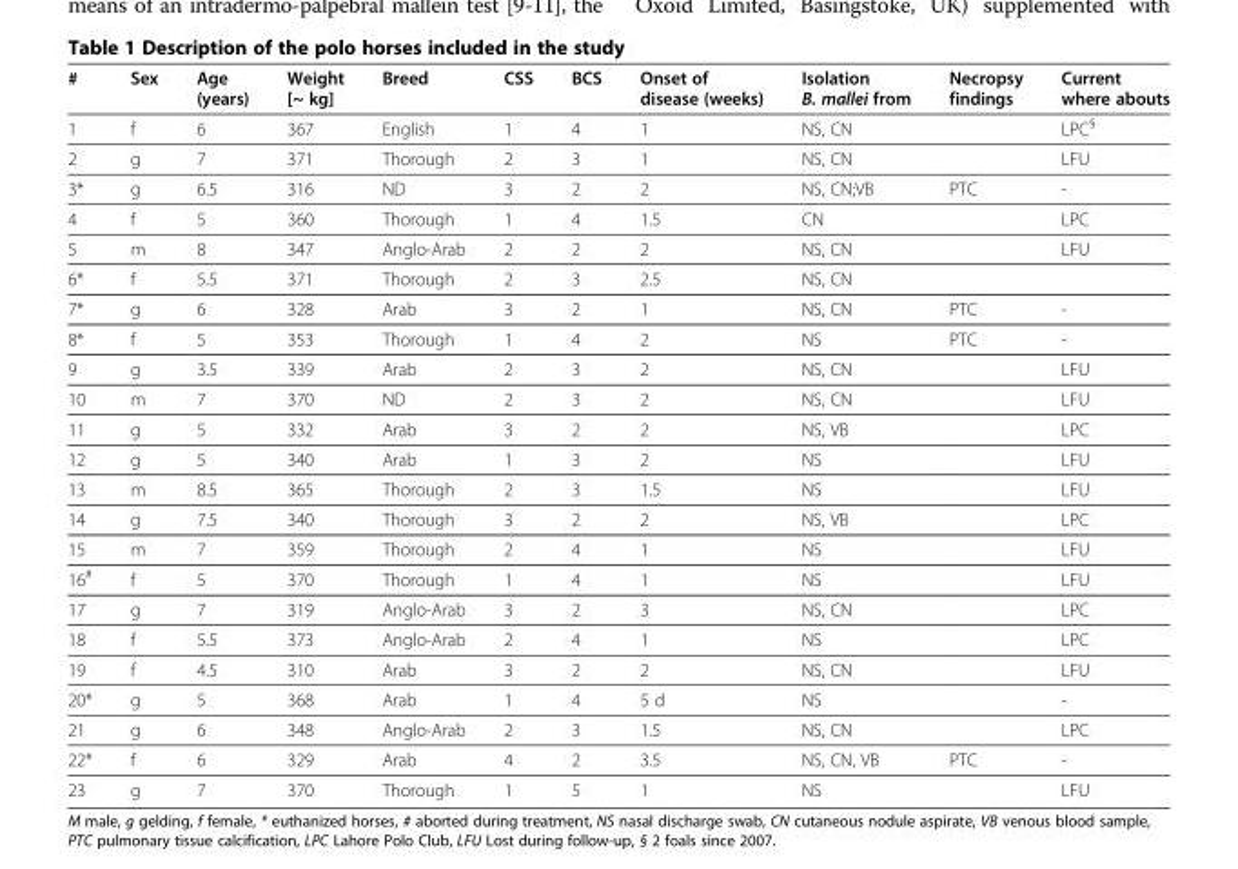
<table><thead><tr><td>#</td><td>Sex</td><td>Age (years)</td><td>Weight [~ kg]</td><td>Breed</td><td>CSS</td><td>BCS</td><td>Onset of disease (weeks)</td><td>Isolation B. mallei from</td><td>Necropsy findings</td><td>Current where abouts</td></tr></thead><tbody><tr><td>1</td><td>f</td><td>6</td><td>367</td><td>English</td><td>1</td><td>4</td><td>1</td><td>NS, CN</td><td></td><td>LPC<sup>§</sup></td></tr><tr><td>2</td><td>g</td><td>7</td><td>371</td><td>Thorough</td><td>2</td><td>3</td><td>1</td><td>NS, CN</td><td></td><td>LFU</td></tr><tr><td>3*</td><td>g</td><td>6.5</td><td>316</td><td>ND</td><td>3</td><td>2</td><td>2</td><td>NS, CN;VB</td><td>PTC</td><td>-</td></tr><tr><td>4</td><td>f</td><td>5</td><td>360</td><td>Thorough</td><td>1</td><td>4</td><td>1.5</td><td>CN</td><td></td><td>LPC</td></tr><tr><td>5</td><td>m</td><td>8</td><td>347</td><td>Anglo-Arab</td><td>2</td><td>2</td><td>2</td><td>NS, CN</td><td></td><td>LFU</td></tr><tr><td>6*</td><td>f</td><td>5.5</td><td>371</td><td>Thorough</td><td>2</td><td>3</td><td>2.5</td><td>NS, CN</td><td></td><td></td></tr><tr><td>7*</td><td>g</td><td>6</td><td>328</td><td>Arab</td><td>3</td><td>2</td><td>1</td><td>NS, CN</td><td>PTC</td><td>-</td></tr><tr><td>8*</td><td>f</td><td>5</td><td>353</td><td>Thorough</td><td>1</td><td>4</td><td>2</td><td>NS</td><td>PTC</td><td>-</td></tr><tr><td>9</td><td>g</td><td>3.5</td><td>339</td><td>Arab</td><td>2</td><td>3</td><td>2</td><td>NS, CN</td><td></td><td>LFU</td></tr><tr><td>10</td><td>m</td><td>7</td><td>370</td><td>ND</td><td>2</td><td>3</td><td>2</td><td>NS, CN</td><td></td><td>LFU</td></tr><tr><td>11</td><td>g</td><td>5</td><td>332</td><td>Arab</td><td>3</td><td>2</td><td>2</td><td>NS, VB</td><td></td><td>LPC</td></tr><tr><td>12</td><td>g</td><td>5</td><td>340</td><td>Arab</td><td>1</td><td>3</td><td>2</td><td>NS</td><td></td><td>LFU</td></tr><tr><td>13</td><td>m</td><td>8.5</td><td>365</td><td>Thorough</td><td>2</td><td>3</td><td>1.5</td><td>NS</td><td></td><td>LFU</td></tr><tr><td>14</td><td>g</td><td>7.5</td><td>340</td><td>Thorough</td><td>3</td><td>2</td><td>2</td><td>NS, VB</td><td></td><td>LPC</td></tr><tr><td>15</td><td>m</td><td>7</td><td>359</td><td>Thorough</td><td>2</td><td>4</td><td>1</td><td>NS</td><td></td><td>LFU</td></tr><tr><td>16<sup>#</sup></td><td>f</td><td>5</td><td>370</td><td>Thorough</td><td>1</td><td>4</td><td>1</td><td>NS</td><td></td><td>LFU</td></tr><tr><td>17</td><td>g</td><td>7</td><td>319</td><td>Anglo-Arab</td><td>3</td><td>2</td><td>3</td><td>NS, CN</td><td></td><td>LPC</td></tr><tr><td>18</td><td>f</td><td>5.5</td><td>373</td><td>Anglo-Arab</td><td>2</td><td>4</td><td>1</td><td>NS</td><td></td><td>LPC</td></tr><tr><td>19</td><td>f</td><td>4.5</td><td>310</td><td>Arab</td><td>3</td><td>2</td><td>2</td><td>NS, CN</td><td></td><td>LFU</td></tr><tr><td>20*</td><td>g</td><td>5</td><td>368</td><td>Arab</td><td>1</td><td>4</td><td>5 d</td><td>NS</td><td></td><td>-</td></tr><tr><td>21</td><td>g</td><td>6</td><td>348</td><td>Anglo-Arab</td><td>2</td><td>3</td><td>1.5</td><td>NS, CN</td><td></td><td>LPC</td></tr><tr><td>22*</td><td>f</td><td>6</td><td>329</td><td>Arab</td><td>4</td><td>2</td><td>3.5</td><td>NS, CN, VB</td><td>PTC</td><td>-</td></tr><tr><td>23</td><td>g</td><td>7</td><td>370</td><td>Thorough</td><td>1</td><td>5</td><td>1</td><td>NS</td><td></td><td>LFU</td></tr></tbody></table>